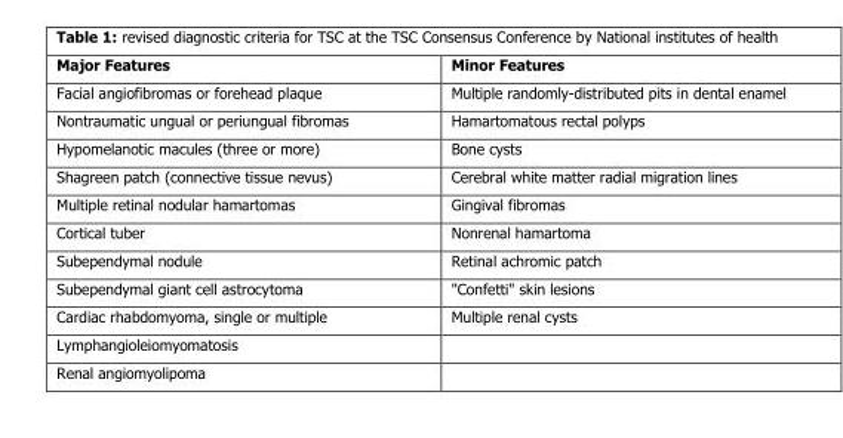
<table><thead><tr><td>Major Features</td><td>Minor Features</td></tr></thead><tbody><tr><td>Facial angiofibromas or forehead plaque</td><td>Multiple randomly-distributed pits in dental enamel</td></tr><tr><td>Nontraumatic ungual or periungual fibromas</td><td>Hamartomatous rectal polyps</td></tr><tr><td>Hypomelanotic macules (three or more)</td><td>Bone cysts</td></tr><tr><td>Shagreen patch (connective tissue nevus)</td><td>Cerebral white matter radial migration lines</td></tr><tr><td>Multiple retinal nodular hamartomas</td><td>Gingival fibromas</td></tr><tr><td>Cortical tuber</td><td>Nonrenal hamartoma</td></tr><tr><td>Subependymal nodule</td><td>Retinal achromic patch</td></tr><tr><td>Subependymal giant cell astrocytoma</td><td>&quot;Confetti&quot; skin lesions</td></tr><tr><td>Cardiac rhabdomyoma, single or multiple</td><td>Multiple renal cysts</td></tr><tr><td colspan="2">Lymphangioleiomyomatosis</td></tr><tr><td>Renal angiomyolipoma</td><td></td></tr></tbody></table>